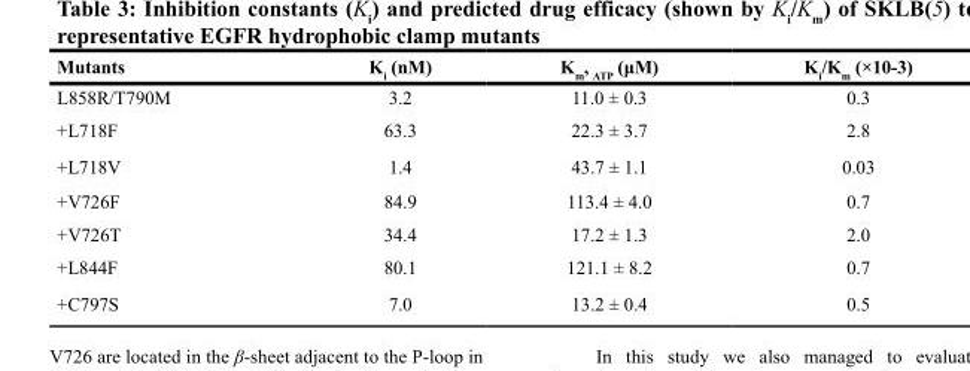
<table><thead><tr><td>Mutants</td><td>K<sub>i</sub> (nM)</td><td>K<sub>m</sub>, <sub>ATP</sub> (μM)</td><td>K<sub>i</sub>/K<sub>m</sub> (×10-3)</td></tr></thead><tbody><tr><td>L858R/T790M</td><td>3.2</td><td>11.0 ± 0.3</td><td>0.3</td></tr><tr><td>+L718F</td><td>63.3</td><td>22.3 ± 3.7</td><td>2.8</td></tr><tr><td>+L718V</td><td>1.4</td><td>43.7 ± 1.1</td><td>0.03</td></tr><tr><td>+V726F</td><td>84.9</td><td>113.4 ± 4.0</td><td>0.7</td></tr><tr><td>+V726T</td><td>34.4</td><td>17.2 ± 1.3</td><td>2.0</td></tr><tr><td>+L844F</td><td>80.1</td><td>121.1 ± 8.2</td><td>0.7</td></tr><tr><td>+C797S</td><td>7.0</td><td>13.2 ± 0.4</td><td>0.5</td></tr></tbody></table>